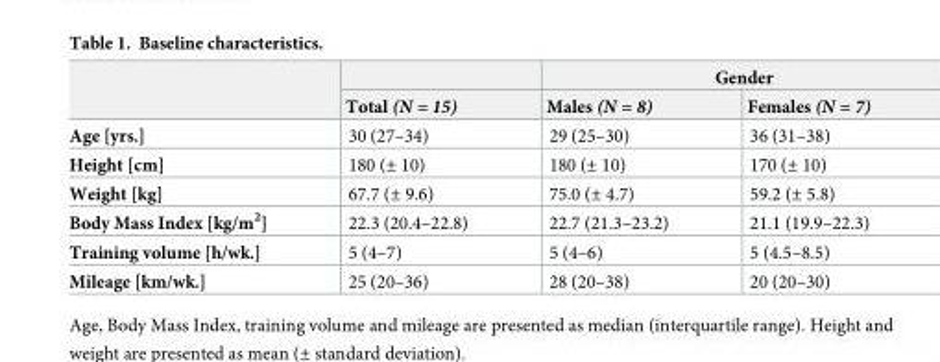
<table><thead><tr><td rowspan="2"></td><td rowspan="2">Total (N = 15)</td><td colspan="2">Gender</td></tr><tr><td>Males (N = 8)</td><td>Females (N = 7)</td></tr></thead><tbody><tr><td>Age [yrs.]</td><td>30 (27–34)</td><td>29 (25–30)</td><td>36 (31–38)</td></tr><tr><td>Height [cm]</td><td>180 (± 10)</td><td>180 (± 10)</td><td>170 (± 10)</td></tr><tr><td>Weight [kg]</td><td>67.7 (± 9.6)</td><td>75.0 (± 4.7)</td><td>59.2 (± 5.8)</td></tr><tr><td>Body Mass Index [kg/m<sup>2</sup>]</td><td>22.3 (20.4–22.8)</td><td>22.7 (21.3–23.2)</td><td>21.1 (19.9–22.3)</td></tr><tr><td>Training volume [h/wk.]</td><td>5 (4–7)</td><td>5 (4–6)</td><td>5 (4.5–8.5)</td></tr><tr><td>Mileage [km/wk.]</td><td>25 (20–36)</td><td>28 (20–38)</td><td>20 (20–30)</td></tr></tbody></table>